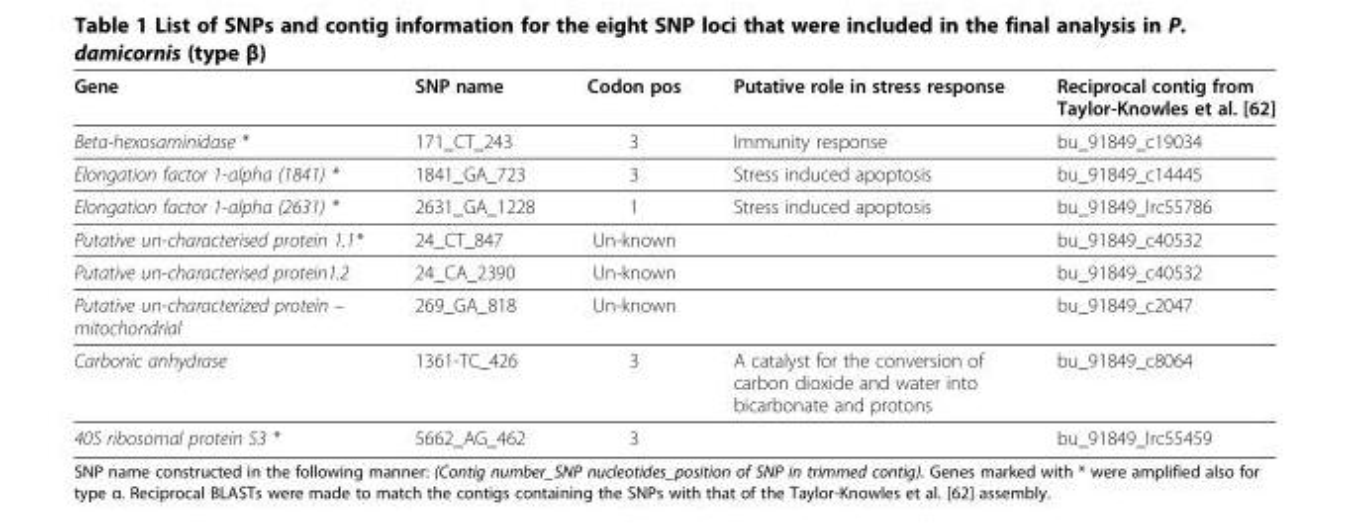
<table><thead><tr><td>Gene</td><td>SNP name</td><td>Codon pos</td><td>Putative role in stress response</td><td>Reciprocal contig from Taylor-Knowles et al. [62]</td></tr></thead><tbody><tr><td>Beta-hexosaminidase *</td><td>171_CT_243</td><td>3</td><td>Immunity response</td><td>bu_91849_c19034</td></tr><tr><td>Elongation factor 1-alpha (1841) *</td><td>1841_GA_723</td><td>3</td><td>Stress induced apoptosis</td><td>bu_91849_c14445</td></tr><tr><td>Elongation factor 1-alpha (2631) *</td><td>2631_GA_1228</td><td>1</td><td>Stress induced apoptosis</td><td>bu_91849_lrc55786</td></tr><tr><td>Putative un-characterised protein 1.1*</td><td>24_CT_847</td><td>Un-known</td><td></td><td>bu_91849_c40532</td></tr><tr><td>Putative un-characterised protein1.2</td><td>24_CA_2390</td><td>Un-known</td><td></td><td>bu_91849_c40532</td></tr><tr><td>Putative un-characterized protein – mitochondrial</td><td>269_GA_818</td><td>Un-known</td><td></td><td>bu_91849_c2047</td></tr><tr><td>Carbonic anhydrase</td><td>1361-TC_426</td><td>3</td><td>A catalyst for the conversion of carbon dioxide and water into bicarbonate and protons</td><td>bu_91849_c8064</td></tr><tr><td>40S ribosomal protein S3 *</td><td>5662_AG_462</td><td>3</td><td></td><td>bu_91849_lrc55459</td></tr></tbody></table>